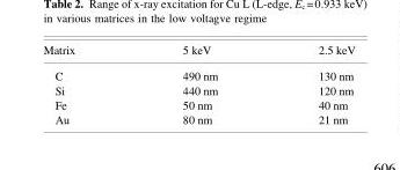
<table><thead><tr><td>Matrix</td><td>5 keV</td><td>2.5 keV</td></tr></thead><tbody><tr><td>C</td><td>490 nm</td><td>130 nm</td></tr><tr><td>Si</td><td>440 nm</td><td>120 nm</td></tr><tr><td>Fe</td><td>50 nm</td><td>40 nm</td></tr><tr><td>Au</td><td>80 nm</td><td>21 nm</td></tr></tbody></table>